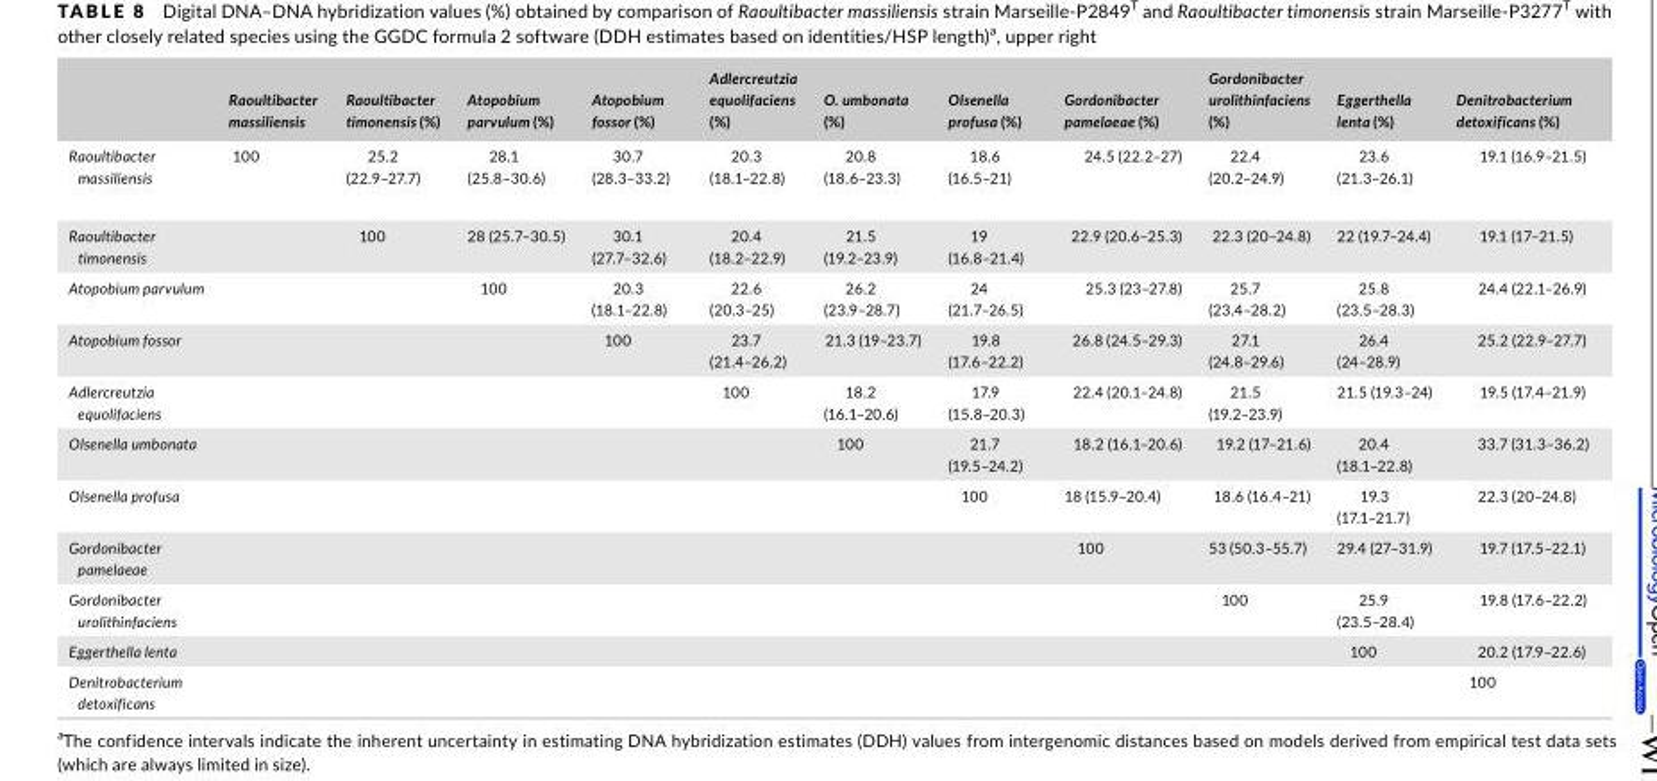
<table><thead><tr><td></td><td>Raoultibacter massiliensis</td><td>Raoultibacter timonensis (%)</td><td>Atopobium parvulum (%)</td><td>Atopobium fossor (%)</td><td>Adlercreutzia equolifaciens (%)</td><td>O. umbonata (%)</td><td>Olsenella profusa (%)</td><td>Gordonibacter pamelaeae (%)</td><td>Gordonibacter urolithinfaciens (%)</td><td>Eggerthella lenta (%)</td><td>Denitrobacterium detoxificans (%)</td></tr></thead><tbody><tr><td>Raoultibacter massiliensis</td><td>100</td><td>25.2 (22.9–27.7)</td><td>28.1 (25.8–30.6)</td><td>30.7 (28.3–33.2)</td><td>20.3 (18.1–22.8)</td><td>20.8 (18.6–23.3)</td><td>18.6 (16.5–21)</td><td>24.5 (22.2–27)</td><td>22.4 (20.2–24.9)</td><td>23.6 (21.3–26.1)</td><td>19.1 (16.9–21.5)</td></tr><tr><td>Raoultibacter timonensis</td><td></td><td>100</td><td>28 (25.7–30.5)</td><td>30.1 (27.7–32.6)</td><td>20.4 (18.2–22.9)</td><td>21.5 (19.2–23.9)</td><td>19 (16.8–21.4)</td><td>22.9 (20.6–25.3)</td><td>22.3 (20–24.8)</td><td>22 (19.7–24.4)</td><td>19.1 (17–21.5)</td></tr><tr><td>Atopobium parvulum</td><td></td><td></td><td>100</td><td>20.3 (18.1–22.8)</td><td>22.6 (20.3–25)</td><td>26.2 (23.9–28.7)</td><td>24 (21.7–26.5)</td><td>25.3 (23–27.8)</td><td>25.7 (23.4–28.2)</td><td>25.8 (23.5–28.3)</td><td>24.4 (22.1–26.9)</td></tr><tr><td>Atopobium fossor</td><td></td><td></td><td></td><td>100</td><td>23.7 (21.4–26.2)</td><td>21.3 (19–23.7)</td><td>19.8 (17.6–22.2)</td><td>26.8 (24.5–29.3)</td><td>27.1 (24.8–29.6)</td><td>26.4 (24–28.9)</td><td>25.2 (22.9–27.7)</td></tr><tr><td>Adlercreutzia equolifaciens</td><td></td><td></td><td></td><td></td><td>100</td><td>18.2 (16.1–20.6)</td><td>17.9 (15.8–20.3)</td><td>22.4 (20.1–24.8)</td><td>21.5 (19.2–23.9)</td><td>21.5 (19.3–24)</td><td>19.5 (17.4–21.9)</td></tr><tr><td>Olsenella umbonata</td><td></td><td></td><td></td><td></td><td></td><td>100</td><td>21.7 (19.5–24.2)</td><td>18.2 (16.1–20.6)</td><td>19.2 (17–21.6)</td><td>20.4 (18.1–22.8)</td><td>33.7 (31.3–36.2)</td></tr><tr><td>Olsenella profusa</td><td></td><td></td><td></td><td></td><td></td><td></td><td>100</td><td>18 (15.9–20.4)</td><td>18.6 (16.4–21)</td><td>19.3 (17.1–21.7)</td><td>22.3 (20–24.8)</td></tr><tr><td>Gordonibacter pamelaeae</td><td></td><td></td><td></td><td></td><td></td><td></td><td></td><td>100</td><td>53 (50.3–55.7)</td><td>29.4 (27–31.9)</td><td>19.7 (17.5–22.1)</td></tr><tr><td>Gordonibacter urolithinfaciens</td><td></td><td></td><td></td><td></td><td></td><td></td><td></td><td></td><td>100</td><td>25.9 (23.5–28.4)</td><td>19.8 (17.6–22.2)</td></tr><tr><td>Eggerthella lenta</td><td></td><td></td><td></td><td></td><td></td><td></td><td></td><td></td><td></td><td>100</td><td>20.2 (17.9–22.6)</td></tr><tr><td>Denitrobacterium detoxificans</td><td></td><td></td><td></td><td></td><td></td><td></td><td></td><td></td><td></td><td></td><td>100</td></tr></tbody></table>